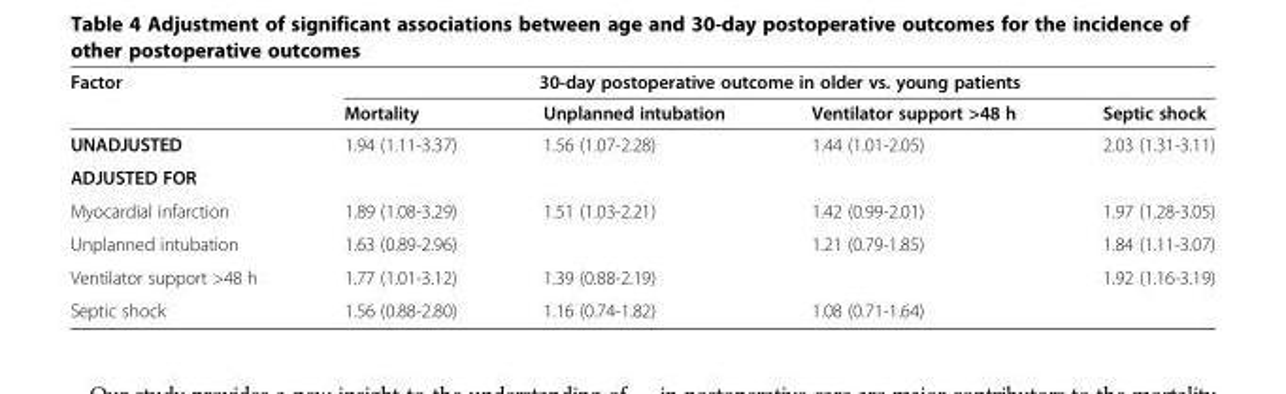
<table><thead><tr><td rowspan="2">Factor</td><td colspan="4">30-day postoperative outcome in older vs. young patients</td></tr><tr><td>Mortality</td><td>Unplanned intubation</td><td>Ventilator support &gt;48 h</td><td>Septic shock</td></tr></thead><tbody><tr><td>UNADJUSTED</td><td>1.94 (1.11-3.37)</td><td>1.56 (1.07-2.28)</td><td>1.44 (1.01-2.05)</td><td>2.03 (1.31-3.11)</td></tr><tr><td colspan="5">ADJUSTED FOR</td></tr><tr><td>Myocardial infarction</td><td>1.89 (1.08-3.29)</td><td>1.51 (1.03-2.21)</td><td>1.42 (0.99-2.01)</td><td>1.97 (1.28-3.05)</td></tr><tr><td>Unplanned intubation</td><td>1.63 (0.89-2.96)</td><td></td><td>1.21 (0.79-1.85)</td><td>1.84 (1.11-3.07)</td></tr><tr><td>Ventilator support &gt;48 h</td><td>1.77 (1.01-3.12)</td><td>1.39 (0.88-2.19)</td><td></td><td>1.92 (1.16-3.19)</td></tr><tr><td>Septic shock</td><td>1.56 (0.88-2.80)</td><td>1.16 (0.74-1.82)</td><td>1.08 (0.71-1.64)</td><td></td></tr></tbody></table>